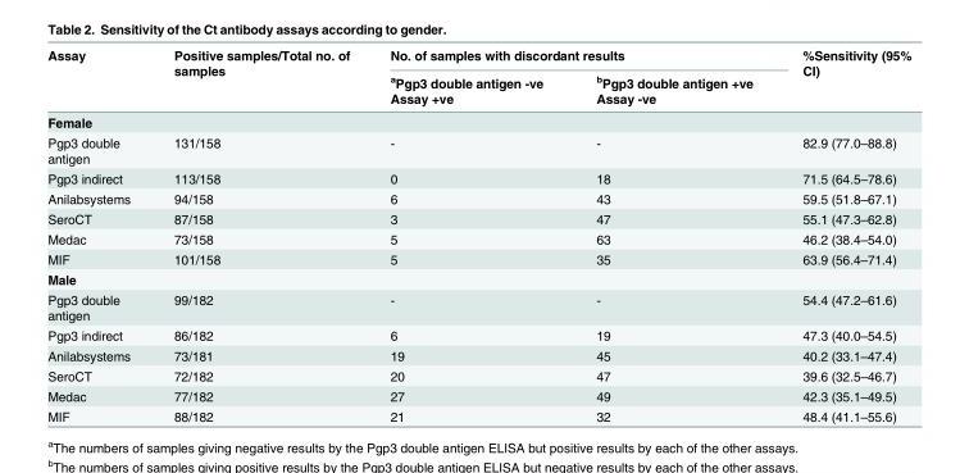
<table><thead><tr><td rowspan="2">Assay</td><td rowspan="2">Positive samples/Total no. of samples</td><td colspan="2">No. of samples with discordant results</td><td rowspan="2">%Sensitivity (95% CI)</td></tr><tr><td><sup>a</sup>Pgp3 double antigen -ve Assay +ve</td><td><sup>b</sup>Pgp3 double antigen +ve Assay -ve</td></tr></thead><tbody><tr><td colspan="5">Female</td></tr><tr><td>Pgp3 double antigen</td><td>131/158</td><td>-</td><td>-</td><td>82.9 (77.0–88.8)</td></tr><tr><td>Pgp3 indirect</td><td>113/158</td><td>0</td><td>18</td><td>71.5 (64.5–78.6)</td></tr><tr><td>Anilabsystems</td><td>94/158</td><td>6</td><td>43</td><td>59.5 (51.8–67.1)</td></tr><tr><td>SeroCT</td><td>87/158</td><td>3</td><td>47</td><td>55.1 (47.3–62.8)</td></tr><tr><td>Medac</td><td>73/158</td><td>5</td><td>63</td><td>46.2 (38.4–54.0)</td></tr><tr><td>MIF</td><td>101/158</td><td>5</td><td>35</td><td>63.9 (56.4–71.4)</td></tr><tr><td colspan="5">Male</td></tr><tr><td>Pgp3 double antigen</td><td>99/182</td><td>-</td><td>-</td><td>54.4 (47.2–61.6)</td></tr><tr><td>Pgp3 indirect</td><td>86/182</td><td>6</td><td>19</td><td>47.3 (40.0–54.5)</td></tr><tr><td>Anilabsystems</td><td>73/181</td><td>19</td><td>45</td><td>40.2 (33.1–47.4)</td></tr><tr><td>SeroCT</td><td>72/182</td><td>20</td><td>47</td><td>39.6 (32.5–46.7)</td></tr><tr><td>Medac</td><td>77/182</td><td>27</td><td>49</td><td>42.3 (35.1–49.5)</td></tr><tr><td>MIF</td><td>88/182</td><td>21</td><td>32</td><td>48.4 (41.1–55.6)</td></tr></tbody></table>